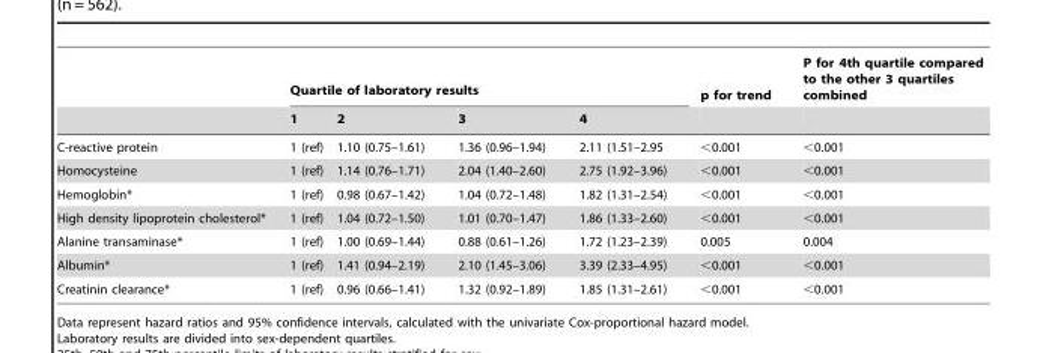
<table><thead><tr><td rowspan="2"></td><td colspan="4">Quartile of laboratory results</td><td rowspan="2">p for trend</td><td rowspan="2">P for 4th quartile compared to the other 3 quartiles combined</td></tr><tr><td>1</td><td>2</td><td>3</td><td>4</td></tr></thead><tbody><tr><td>C-reactive protein</td><td>1 (ref)</td><td>1.10 (0.75–1.61)</td><td>1.36 (0.96–1.94)</td><td>2.11 (1.51–2.95</td><td>&lt;0.001</td><td>&lt;0.001</td></tr><tr><td>Homocysteine</td><td>1 (ref)</td><td>1.14 (0.76–1.71)</td><td>2.04 (1.40–2.60)</td><td>2.75 (1.92–3.96)</td><td>&lt;0.001</td><td>&lt;0.001</td></tr><tr><td>Hemoglobin*</td><td>1 (ref)</td><td>0.98 (0.67–1.42)</td><td>1.04 (0.72–1.48)</td><td>1.82 (1.31–2.54)</td><td>&lt;0.001</td><td>&lt;0.001</td></tr><tr><td>High density lipoprotein cholesterol*</td><td>1 (ref)</td><td>1.04 (0.72–1.50)</td><td>1.01 (0.70–1.47)</td><td>1.86 (1.33–2.60)</td><td>&lt;0.001</td><td>&lt;0.001</td></tr><tr><td>Alanine transaminase*</td><td>1 (ref)</td><td>1.00 (0.69–1.44)</td><td>0.88 (0.61–1.26)</td><td>1.72 (1.23–2.39)</td><td>0.005</td><td>0.004</td></tr><tr><td>Albumin*</td><td>1 (ref)</td><td>1.41 (0.94–2.19)</td><td>2.10 (1.45–3.06)</td><td>3.39 (2.33–4.95)</td><td>&lt;0.001</td><td>&lt;0.001</td></tr><tr><td>Creatinin clearance*</td><td>1 (ref)</td><td>0.96 (0.66–1.41)</td><td>1.32 (0.92–1.89)</td><td>1.85 (1.31–2.61)</td><td>&lt;0.001</td><td>&lt;0.001</td></tr></tbody></table>